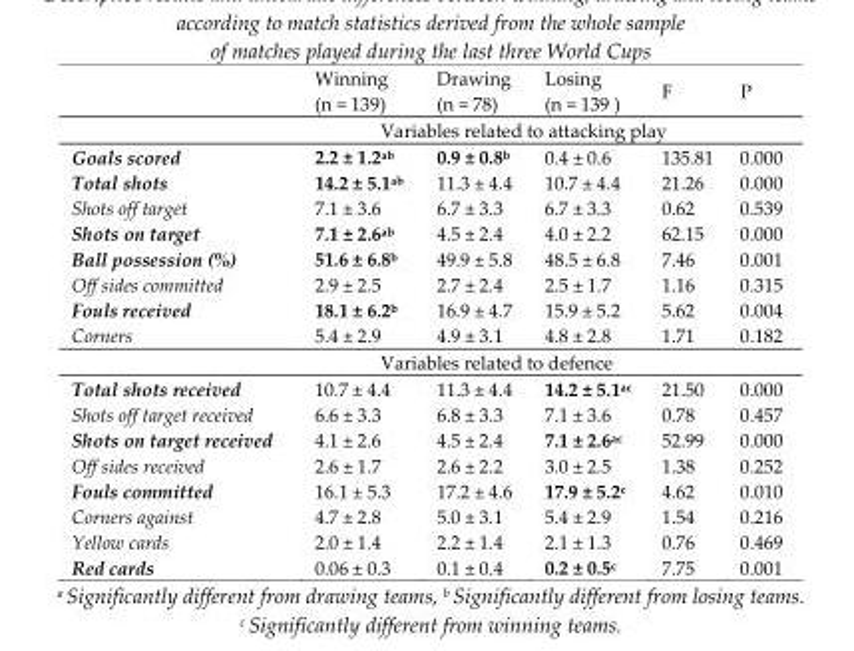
<table><thead><tr><td></td><td>Winning (n = 139)</td><td>Drawing (n = 78)</td><td>Losing (n = 139 )</td><td>F</td><td>P</td></tr></thead><tbody><tr><td colspan="6">Variables related to attacking play</td></tr><tr><td>Goals scored</td><td>2.2 ± 1.2<sup>ab</sup></td><td>0.9 ± 0.8<sup>b</sup></td><td>0.4 ± 0.6</td><td>135.81</td><td>0.000</td></tr><tr><td>Total shots</td><td>14.2 ± 5.1<sup>ab</sup></td><td>11.3 ± 4.4</td><td>10.7 ± 4.4</td><td>21.26</td><td>0.000</td></tr><tr><td>Shots off target</td><td>7.1 ± 3.6</td><td>6.7 ± 3.3</td><td>6.7 ± 3.3</td><td>0.62</td><td>0.539</td></tr><tr><td>Shots on target</td><td>7.1 ± 2.6<sup>ab</sup></td><td>4.5 ± 2.4</td><td>4.0 ± 2.2</td><td>62.15</td><td>0.000</td></tr><tr><td>Ball possession (%)</td><td>51.6 ± 6.8<sup>b</sup></td><td>49.9 ± 5.8</td><td>48.5 ± 6.8</td><td>7.46</td><td>0.001</td></tr><tr><td>Off sides committed</td><td>2.9 ± 2.5</td><td>2.7 ± 2.4</td><td>2.5 ± 1.7</td><td>1.16</td><td>0.315</td></tr><tr><td>Fouls received</td><td>18.1 ± 6.2<sup>b</sup></td><td>16.9 ± 4.7</td><td>15.9 ± 5.2</td><td>5.62</td><td>0.004</td></tr><tr><td>Corners</td><td>5.4 ± 2.9</td><td>4.9 ± 3.1</td><td>4.8 ± 2.8</td><td>1.71</td><td>0.182</td></tr><tr><td colspan="6">Variables related to defence</td></tr><tr><td>Total shots received</td><td>10.7 ± 4.4</td><td>11.3 ± 4.4</td><td>14.2 ± 5.1<sup>ac</sup></td><td>21.50</td><td>0.000</td></tr><tr><td>Shots off target received</td><td>6.6 ± 3.3</td><td>6.8 ± 3.3</td><td>7.1 ± 3.6</td><td>0.78</td><td>0.457</td></tr><tr><td>Shots on target received</td><td>4.1 ± 2.6</td><td>4.5 ± 2.4</td><td>7.1 ± 2.6<sup>ac</sup></td><td>52.99</td><td>0.000</td></tr><tr><td>Off sides received</td><td>2.6 ± 1.7</td><td>2.6 ± 2.2</td><td>3.0 ± 2.5</td><td>1.38</td><td>0.252</td></tr><tr><td>Fouls committed</td><td>16.1 ± 5.3</td><td>17.2 ± 4.6</td><td>17.9 ± 5.2<sup>c</sup></td><td>4.62</td><td>0.010</td></tr><tr><td>Corners against</td><td>4.7 ± 2.8</td><td>5.0 ± 3.1</td><td>5.4 ± 2.9</td><td>1.54</td><td>0.216</td></tr><tr><td>Yellow cards</td><td>2.0 ± 1.4</td><td>2.2 ± 1.4</td><td>2.1 ± 1.3</td><td>0.76</td><td>0.469</td></tr><tr><td>Red cards</td><td>0.06 ± 0.3</td><td>0.1 ± 0.4</td><td>0.2 ± 0.5<sup>c</sup></td><td>7.75</td><td>0.001</td></tr></tbody></table>